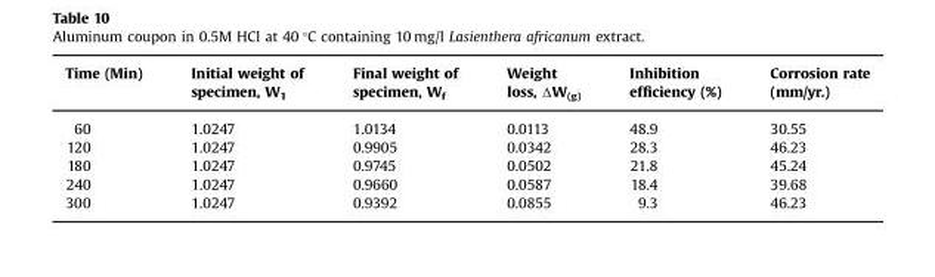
<table><thead><tr><td>Time (Min)</td><td>Initial weight of specimen, W<sub>1</sub></td><td>Final weight of specimen, W<sub>f</sub></td><td>Weight loss, ΔW(g)</td><td>Inhibition efficiency (%)</td><td>Corrosion rate (mm/yr.)</td></tr></thead><tbody><tr><td>60</td><td>1.0247</td><td>1.0134</td><td>0.0113</td><td>48.9</td><td>30.55</td></tr><tr><td>120</td><td>1.0247</td><td>0.9905</td><td>0.0342</td><td>28.3</td><td>46.23</td></tr><tr><td>180</td><td>1.0247</td><td>0.9745</td><td>0.0502</td><td>21.8</td><td>45.24</td></tr><tr><td>240</td><td>1.0247</td><td>0.9660</td><td>0.0587</td><td>18.4</td><td>39.68</td></tr><tr><td>300</td><td>1.0247</td><td>0.9392</td><td>0.0855</td><td>9.3</td><td>46.23</td></tr></tbody></table>